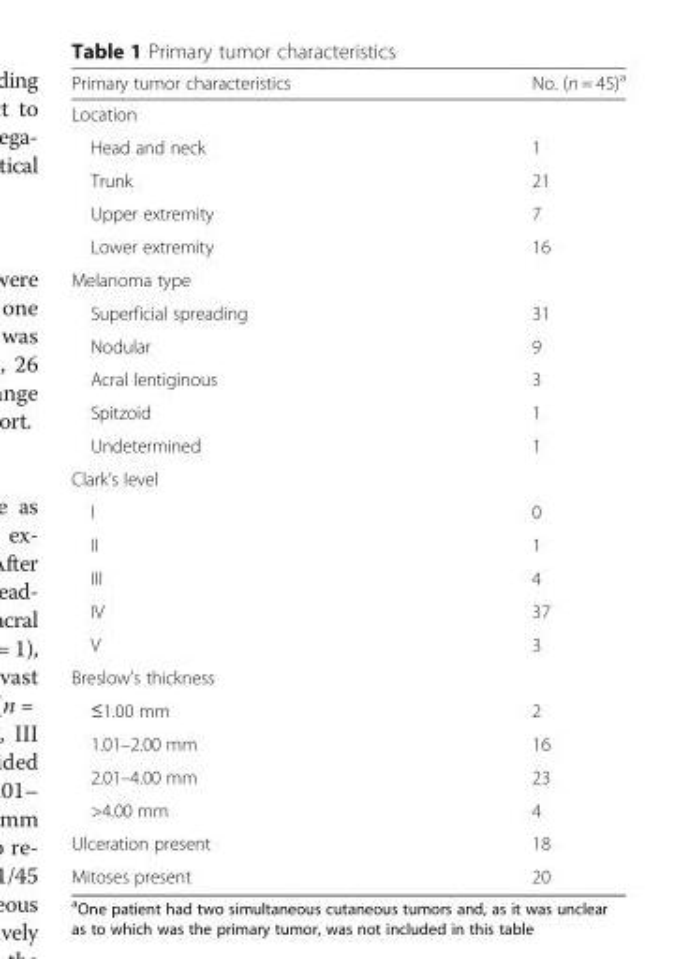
<table><thead><tr><td>Primary tumor characteristics</td><td>No. (n = 45)<sup>a</sup></td></tr></thead><tbody><tr><td colspan="2">Location</td></tr><tr><td>Head and neck</td><td>1</td></tr><tr><td>Trunk</td><td>21</td></tr><tr><td>Upper extremity</td><td>7</td></tr><tr><td>Lower extremity</td><td>16</td></tr><tr><td colspan="2">Melanoma type</td></tr><tr><td>Superficial spreading</td><td>31</td></tr><tr><td>Nodular</td><td>9</td></tr><tr><td>Acral lentiginous</td><td>3</td></tr><tr><td>Spitzoid</td><td>1</td></tr><tr><td>Undetermined</td><td>1</td></tr><tr><td colspan="2">Clark’s level</td></tr><tr><td>I</td><td>0</td></tr><tr><td>II</td><td>1</td></tr><tr><td>III</td><td>4</td></tr><tr><td>IV</td><td>37</td></tr><tr><td>V</td><td>3</td></tr><tr><td colspan="2">Breslow’s thickness</td></tr><tr><td>≤1.00 mm</td><td>2</td></tr><tr><td>1.01–2.00 mm</td><td>16</td></tr><tr><td>2.01–4.00 mm</td><td>23</td></tr><tr><td>&gt;4.00 mm</td><td>4</td></tr><tr><td>Ulceration present</td><td>18</td></tr><tr><td>Mitoses present</td><td>20</td></tr></tbody></table>